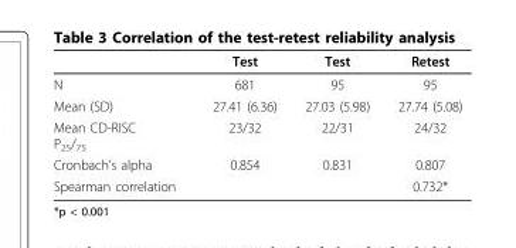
<table><thead><tr><td></td><td>Test</td><td>Test</td><td>Retest</td></tr></thead><tbody><tr><td>N</td><td>681</td><td>95</td><td>95</td></tr><tr><td>Mean (SD)</td><td>27.41 (6.36)</td><td>27.03 (5.98)</td><td>27.74 (5.08)</td></tr><tr><td>Mean CD-RISC P<sub>25</sub>/<sub>75</sub></td><td>23/32</td><td>22/31</td><td>24/32</td></tr><tr><td>Cronbach’s alpha</td><td>0.854</td><td>0.831</td><td>0.807</td></tr><tr><td>Spearman correlation</td><td></td><td></td><td>0.732*</td></tr></tbody></table>